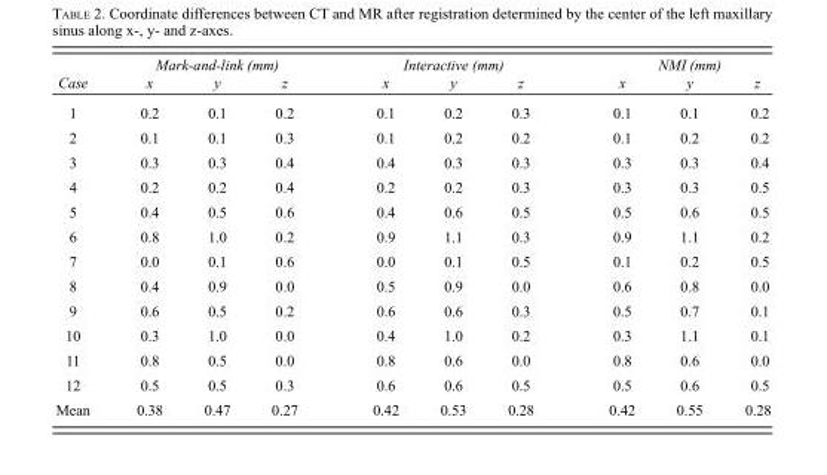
<table><thead><tr><td rowspan="2">Case</td><td colspan="3">Mark-and-link (mm)</td><td colspan="3">Interactive (mm)</td><td colspan="3">NMI (mm)</td></tr><tr><td>x</td><td>y</td><td>z</td><td>x</td><td>y</td><td>z</td><td>x</td><td>y</td><td>z</td></tr></thead><tbody><tr><td>1</td><td>0.2</td><td>0.1</td><td>0.2</td><td>0.1</td><td>0.2</td><td>0.3</td><td>0.1</td><td>0.1</td><td>0.2</td></tr><tr><td>2</td><td>0.1</td><td>0.1</td><td>0.3</td><td>0.1</td><td>0.2</td><td>0.2</td><td>0.1</td><td>0.2</td><td>0.2</td></tr><tr><td>3</td><td>0.3</td><td>0.3</td><td>0.4</td><td>0.4</td><td>0.3</td><td>0.3</td><td>0.3</td><td>0.3</td><td>0.4</td></tr><tr><td>4</td><td>0.2</td><td>0.2</td><td>0.4</td><td>0.2</td><td>0.2</td><td>0.3</td><td>0.3</td><td>0.3</td><td>0.5</td></tr><tr><td>5</td><td>0.4</td><td>0.5</td><td>0.6</td><td>0.4</td><td>0.6</td><td>0.5</td><td>0.5</td><td>0.6</td><td>0.5</td></tr><tr><td>6</td><td>0.8</td><td>1.0</td><td>0.2</td><td>0.9</td><td>1.1</td><td>0.3</td><td>0.9</td><td>1.1</td><td>0.2</td></tr><tr><td>7</td><td>0.0</td><td>0.1</td><td>0.6</td><td>0.0</td><td>0.1</td><td>0.5</td><td>0.1</td><td>0.2</td><td>0.5</td></tr><tr><td>8</td><td>0.4</td><td>0.9</td><td>0.0</td><td>0.5</td><td>0.9</td><td>0.0</td><td>0.6</td><td>0.8</td><td>0.0</td></tr><tr><td>9</td><td>0.6</td><td>0.5</td><td>0.2</td><td>0.6</td><td>0.6</td><td>0.3</td><td>0.5</td><td>0.7</td><td>0.1</td></tr><tr><td>10</td><td>0.3</td><td>1.0</td><td>0.0</td><td>0.4</td><td>1.0</td><td>0.2</td><td>0.3</td><td>1.1</td><td>0.1</td></tr><tr><td>11</td><td>0.8</td><td>0.5</td><td>0.0</td><td>0.8</td><td>0.6</td><td>0.0</td><td>0.8</td><td>0.6</td><td>0.0</td></tr><tr><td>12</td><td>0.5</td><td>0.5</td><td>0.3</td><td>0.6</td><td>0.6</td><td>0.5</td><td>0.5</td><td>0.6</td><td>0.5</td></tr><tr><td>Mean</td><td>0.38</td><td>0.47</td><td>0.27</td><td>0.42</td><td>0.53</td><td>0.28</td><td>0.42</td><td>0.55</td><td>0.28</td></tr></tbody></table>